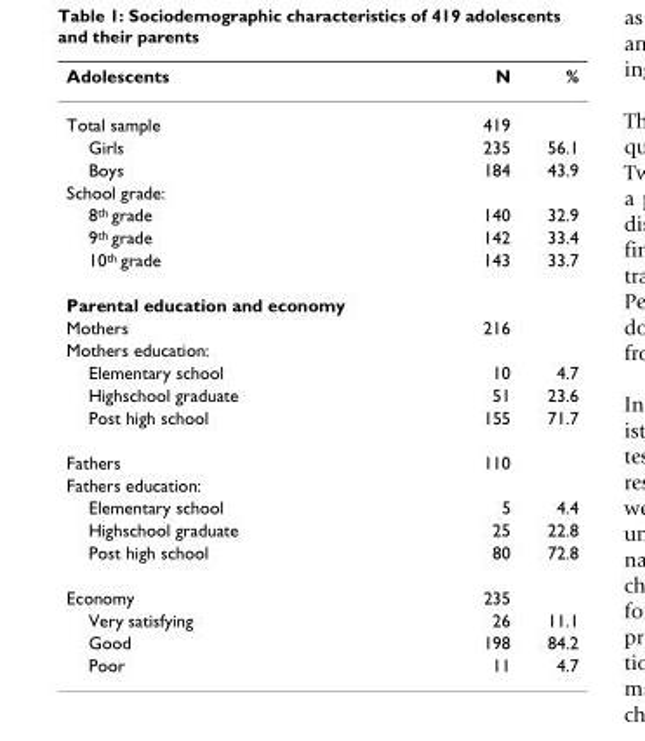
<table><thead><tr><td>Adolescents</td><td>N</td><td>%</td></tr></thead><tbody><tr><td>Total sample</td><td>419</td><td></td></tr><tr><td>Girls</td><td>235</td><td>56.1</td></tr><tr><td>Boys</td><td>184</td><td>43.9</td></tr><tr><td colspan="3">School grade:</td></tr><tr><td>8<sup>th</sup> grade</td><td>140</td><td>32.9</td></tr><tr><td>9<sup>th</sup> grade</td><td>142</td><td>33.4</td></tr><tr><td>10<sup>th</sup> grade</td><td>143</td><td>33.7</td></tr><tr><td colspan="3">Parental education and economy</td></tr><tr><td>Mothers</td><td>216</td><td></td></tr><tr><td colspan="3">Mothers education:</td></tr><tr><td>Elementary school</td><td>10</td><td>4.7</td></tr><tr><td>Highschool graduate</td><td>51</td><td>23.6</td></tr><tr><td>Post high school</td><td>155</td><td>71.7</td></tr><tr><td>Fathers</td><td>110</td><td></td></tr><tr><td colspan="3">Fathers education:</td></tr><tr><td>Elementary school</td><td>5</td><td>4.4</td></tr><tr><td>Highschool graduate</td><td>25</td><td>22.8</td></tr><tr><td>Post high school</td><td>80</td><td>72.8</td></tr><tr><td>Economy</td><td>235</td><td></td></tr><tr><td>Very satisfying</td><td>26</td><td>11.1</td></tr><tr><td>Good</td><td>198</td><td>84.2</td></tr><tr><td>Poor</td><td>11</td><td>4.7</td></tr></tbody></table>